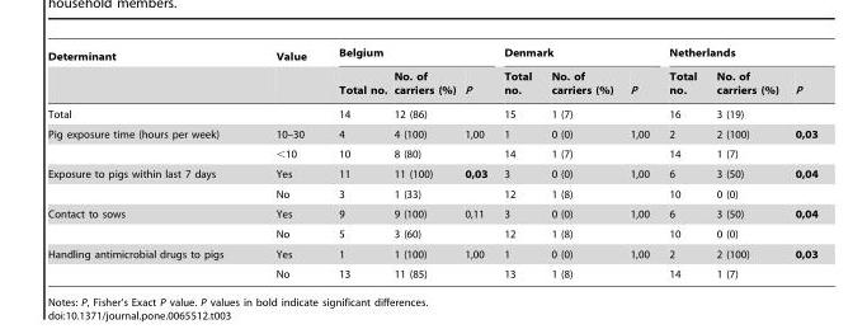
<table><thead><tr><td rowspan="2">Determinant</td><td rowspan="2">Value</td><td colspan="3">Belgium</td><td colspan="3">Denmark</td><td colspan="3">Netherlands</td></tr><tr><td>Total no.</td><td>No. of carriers (%)</td><td>P</td><td>Total no.</td><td>No. of carriers (%)</td><td>P</td><td>Total no.</td><td>No. of carriers (%)</td><td>P</td></tr></thead><tbody><tr><td>Total</td><td></td><td>14</td><td>12 (86)</td><td></td><td>15</td><td>1 (7)</td><td></td><td>16</td><td>3 (19)</td><td></td></tr><tr><td rowspan="2">Pig exposure time (hours per week)</td><td>10–30</td><td>4</td><td>4 (100)</td><td>1,00</td><td>1</td><td>0 (0)</td><td>1,00</td><td>2</td><td>2 (100)</td><td>0,03</td></tr><tr><td>&lt;10</td><td>10</td><td>8 (80)</td><td></td><td>14</td><td>1 (7)</td><td></td><td>14</td><td>1 (7)</td><td></td></tr><tr><td rowspan="2">Exposure to pigs within last 7 days</td><td>Yes</td><td>11</td><td>11 (100)</td><td>0,03</td><td>3</td><td>0 (0)</td><td>1,00</td><td>6</td><td>3 (50)</td><td>0,04</td></tr><tr><td>No</td><td>3</td><td>1 (33)</td><td></td><td>12</td><td>1 (8)</td><td></td><td>10</td><td>0 (0)</td><td></td></tr><tr><td rowspan="2">Contact to sows</td><td>Yes</td><td>9</td><td>9 (100)</td><td>0,11</td><td>3</td><td>0 (0)</td><td>1,00</td><td>6</td><td>3 (50)</td><td>0,04</td></tr><tr><td>No</td><td>5</td><td>3 (60)</td><td></td><td>12</td><td>1 (8)</td><td></td><td>10</td><td>0 (0)</td><td></td></tr><tr><td rowspan="2">Handling antimicrobial drugs to pigs</td><td>Yes</td><td>1</td><td>1 (100)</td><td>1,00</td><td>1</td><td>0 (0)</td><td>1,00</td><td>2</td><td>2 (100)</td><td>0,03</td></tr><tr><td>No</td><td>13</td><td>11 (85)</td><td></td><td>13</td><td>1 (8)</td><td></td><td>14</td><td>1 (7)</td><td></td></tr></tbody></table>